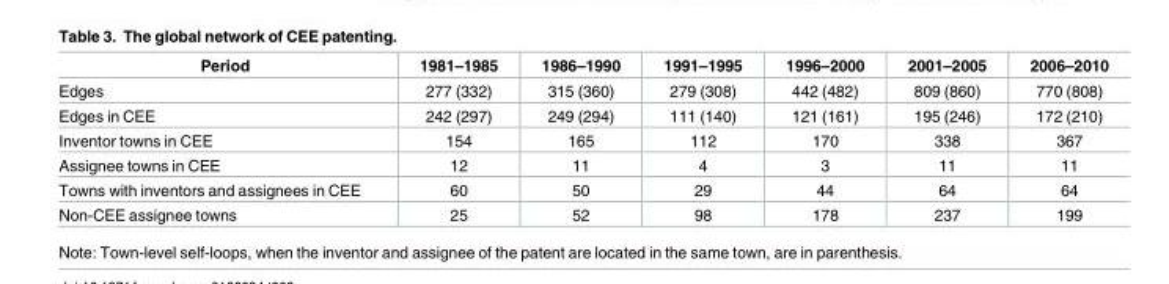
<table><thead><tr><td>Period</td><td>1981–1985</td><td>1986–1990</td><td>1991–1995</td><td>1996–2000</td><td>2001–2005</td><td>2006–2010</td></tr></thead><tbody><tr><td>Edges</td><td>277 (332)</td><td>315 (360)</td><td>279 (308)</td><td>442 (482)</td><td>809 (860)</td><td>770 (808)</td></tr><tr><td>Edges in CEE</td><td>242 (297)</td><td>249 (294)</td><td>111 (140)</td><td>121 (161)</td><td>195 (246)</td><td>172 (210)</td></tr><tr><td>Inventor towns in CEE</td><td>154</td><td>165</td><td>112</td><td>170</td><td>338</td><td>367</td></tr><tr><td>Assignee towns in CEE</td><td>12</td><td>11</td><td>4</td><td>3</td><td>11</td><td>11</td></tr><tr><td>Towns with inventors and assignees in CEE</td><td>60</td><td>50</td><td>29</td><td>44</td><td>64</td><td>64</td></tr><tr><td>Non-CEE assignee towns</td><td>25</td><td>52</td><td>98</td><td>178</td><td>237</td><td>199</td></tr></tbody></table>